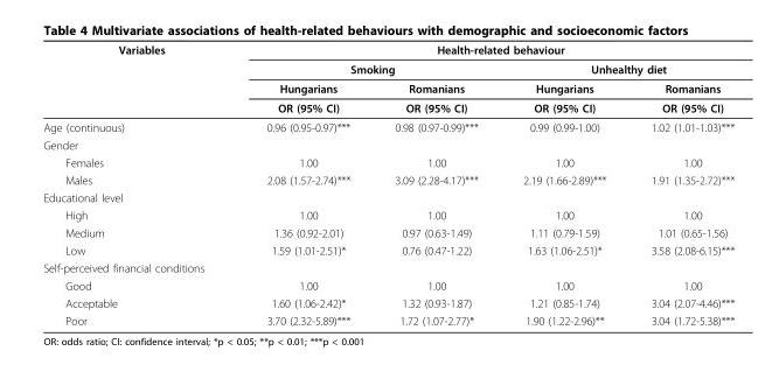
<table><thead><tr><td rowspan="4">Variables</td><td colspan="4">Health-related behaviour</td></tr><tr><td colspan="2">Smoking</td><td colspan="2">Unhealthy diet</td></tr><tr><td rowspan="2">Hungarians OR (95% CI)</td><td rowspan="2">Romanians OR (95% CI)</td><td rowspan="2">Hungarians OR (95% CI)</td><td rowspan="2">Romanians OR (95% CI)</td></tr><tr></tr></thead><tbody><tr><td>Age (continuous)</td><td>0.96 (0.95-0.97)***</td><td>0.98 (0.97-0.99)***</td><td>0.99 (0.99-1.00)</td><td>1.02 (1.01-1.03)***</td></tr><tr><td colspan="5">Gender</td></tr><tr><td>Females</td><td>1.00</td><td>1.00</td><td>1.00</td><td>1.00</td></tr><tr><td>Males</td><td>2.08 (1.57-2.74)***</td><td>3.09 (2.28-4.17)***</td><td>2.19 (1.66-2.89)***</td><td>1.91 (1.35-2.72)***</td></tr><tr><td colspan="5">Educational level</td></tr><tr><td>High</td><td>1.00</td><td>1.00</td><td>1.00</td><td>1.00</td></tr><tr><td>Medium</td><td>1.36 (0.92-2.01)</td><td>0.97 (0.63-1.49)</td><td>1.11 (0.79-1.59)</td><td>1.01 (0.65-1.56)</td></tr><tr><td>Low</td><td>1.59 (1.01-2.51)*</td><td>0.76 (0.47-1.22)</td><td>1.63 (1.06-2.51)*</td><td>3.58 (2.08-6.15)***</td></tr><tr><td colspan="5">Self-perceived financial conditions</td></tr><tr><td>Good</td><td>1.00</td><td>1.00</td><td>1.00</td><td>1.00</td></tr><tr><td>Acceptable</td><td>1.60 (1.06-2.42)*</td><td>1.32 (0.93-1.87)</td><td>1.21 (0.85-1.74)</td><td>3.04 (2.07-4.46)***</td></tr><tr><td>Poor</td><td>3.70 (2.32-5.89)***</td><td>1.72 (1.07-2.77)*</td><td>1.90 (1.22-2.96)**</td><td>3.04 (1.72-5.38)***</td></tr></tbody></table>